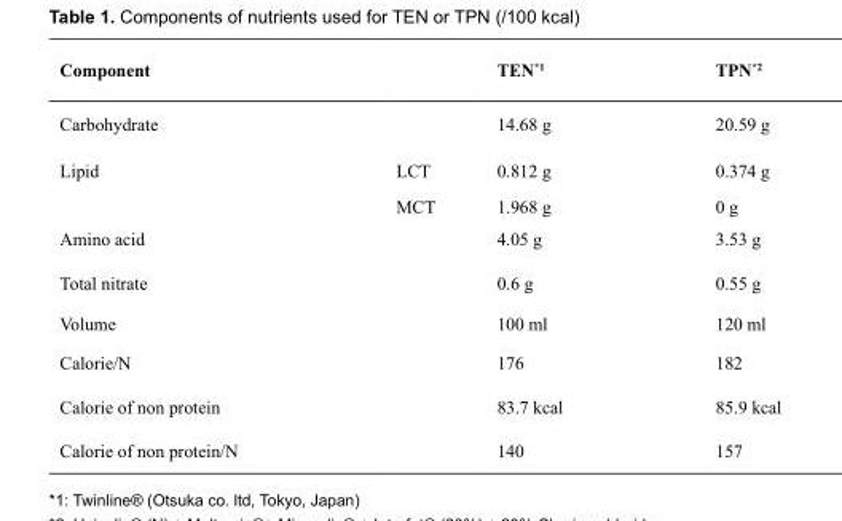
<table><thead><tr><td>Component</td><td></td><td>TEN<sup>*1</sup></td><td>TPN<sup>*2</sup></td></tr></thead><tbody><tr><td>Carbohydrate</td><td></td><td>14.68 g</td><td>20.59 g</td></tr><tr><td rowspan="2">Lipid</td><td>LCT</td><td>0.812 g</td><td>0.374 g</td></tr><tr><td>MCT</td><td>1.968 g</td><td>0 g</td></tr><tr><td>Amino acid</td><td></td><td>4.05 g</td><td>3.53 g</td></tr><tr><td>Total nitrate</td><td></td><td>0.6 g</td><td>0.55 g</td></tr><tr><td>Volume</td><td></td><td>100 ml</td><td>120 ml</td></tr><tr><td>Calorie/N</td><td></td><td>176</td><td>182</td></tr><tr><td>Calorie of non protein</td><td></td><td>83.7 kcal</td><td>85.9 kcal</td></tr><tr><td>Calorie of non protein/N</td><td></td><td>140</td><td>157</td></tr></tbody></table>